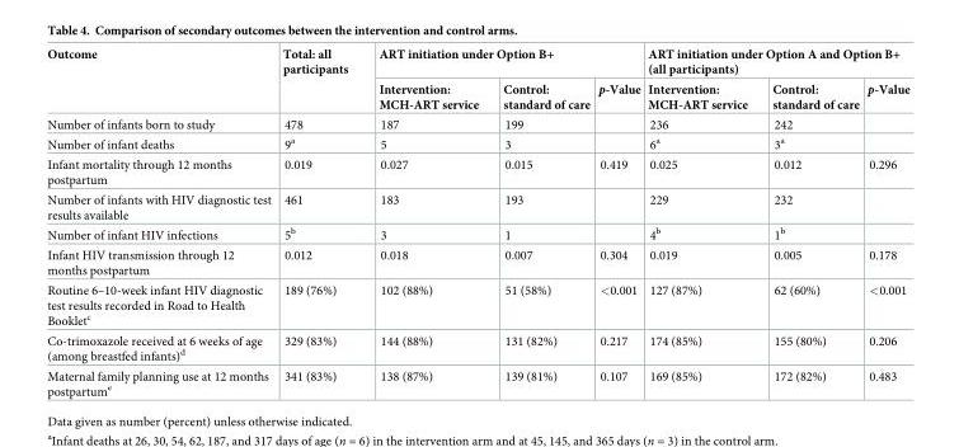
<table><thead><tr><td rowspan="2">Outcome</td><td rowspan="2">Total: all participants</td><td colspan="3">ART initiation under Option B+</td><td colspan="3">ART initiation under Option A and Option B+ (all participants)</td></tr><tr><td>Intervention: MCH-ART service</td><td>Control: standard of care</td><td>p-Value</td><td>Intervention: MCH-ART service</td><td>Control: standard of care</td><td>p-Value</td></tr></thead><tbody><tr><td>Number of infants born to study</td><td>478</td><td>187</td><td>199</td><td></td><td>236</td><td>242</td><td></td></tr><tr><td>Number of infant deaths</td><td>9<sup>a</sup></td><td>5</td><td>3</td><td></td><td>6<sup>a</sup></td><td>3<sup>a</sup></td><td></td></tr><tr><td>Infant mortality through 12 months postpartum</td><td>0.019</td><td>0.027</td><td>0.015</td><td>0.419</td><td>0.025</td><td>0.012</td><td>0.296</td></tr><tr><td>Number of infants with HIV diagnostic test results available</td><td>461</td><td>183</td><td>193</td><td></td><td>229</td><td>232</td><td></td></tr><tr><td>Number of infant HIV infections</td><td>5<sup>b</sup></td><td>3</td><td>1</td><td></td><td>4<sup>b</sup></td><td>1<sup>b</sup></td><td></td></tr><tr><td>Infant HIV transmission through 12 months postpartum</td><td>0.012</td><td>0.018</td><td>0.007</td><td>0.304</td><td>0.019</td><td>0.005</td><td>0.178</td></tr><tr><td>Routine 6–10-week infant HIV diagnostic test results recorded in Road to Health Booklet<sup>c</sup></td><td>189 (76%)</td><td>102 (88%)</td><td>51 (58%)</td><td>&lt;0.001</td><td>127 (87%)</td><td>62 (60%)</td><td>&lt;0.001</td></tr><tr><td>Co-trimoxazole received at 6 weeks of age (among breastfed infants)<sup>d</sup></td><td>329 (83%)</td><td>144 (88%)</td><td>131 (82%)</td><td>0.217</td><td>174 (85%)</td><td>155 (80%)</td><td>0.206</td></tr><tr><td>Maternal family planning use at 12 months postpartum<sup>e</sup></td><td>341 (83%)</td><td>138 (87%)</td><td>139 (81%)</td><td>0.107</td><td>169 (85%)</td><td>172 (82%)</td><td>0.483</td></tr></tbody></table>